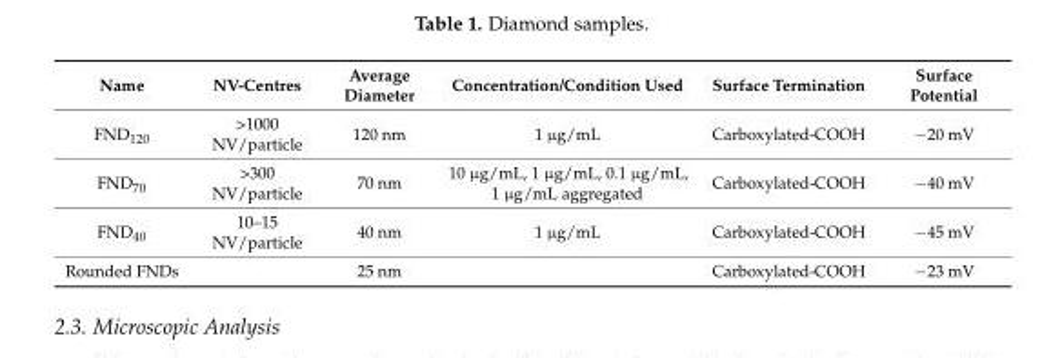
<table><thead><tr><td>Name</td><td>NV-Centres</td><td>Average Diameter</td><td>Concentration/Condition Used</td><td>Surface Termination</td><td>Surface Potential</td></tr></thead><tbody><tr><td>FND<sub>120</sub></td><td>&gt;1000 NV/particle</td><td>120 nm</td><td>1 µg/mL</td><td>Carboxylated-COOH</td><td>−20 mV</td></tr><tr><td>FND<sub>70</sub></td><td>&gt;300 NV/particle</td><td>70 nm</td><td>10 µg/mL, 1 µg/mL, 0.1 µg/mL, 1 µg/mL aggregated</td><td>Carboxylated-COOH</td><td>−40 mV</td></tr><tr><td>FND<sub>40</sub></td><td>10–15 NV/particle</td><td>40 nm</td><td>1 µg/mL</td><td>Carboxylated-COOH</td><td>−45 mV</td></tr><tr><td>Rounded FNDs</td><td></td><td>25 nm</td><td></td><td>Carboxylated-COOH</td><td>−23 mV</td></tr></tbody></table>